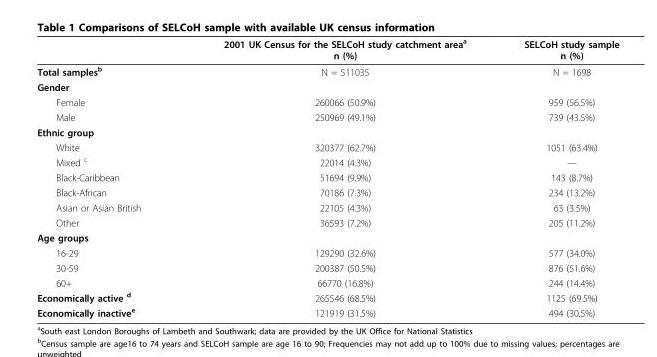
<table><thead><tr><td></td><td>2001 UK Census for the SELCoH study catchment area<sup>a</sup> n (%)</td><td>SELCoH study sample n (%)</td></tr></thead><tbody><tr><td>Total samples<sup>b</sup></td><td>N = 511035</td><td>N = 1698</td></tr><tr><td colspan="3">Gender</td></tr><tr><td>Female</td><td>260066 (50.9%)</td><td>959 (56.5%)</td></tr><tr><td>Male</td><td>250969 (49.1%)</td><td>739 (43.5%)</td></tr><tr><td colspan="3">Ethnic group</td></tr><tr><td>White</td><td>320377 (62.7%)</td><td>1051 (63.4%)</td></tr><tr><td>Mixed <sup>c</sup></td><td>22014 (4.3%)</td><td>—</td></tr><tr><td>Black-Caribbean</td><td>51694 (9.9%)</td><td>143 (8.7%)</td></tr><tr><td>Black-African</td><td>70186 (7.3%)</td><td>234 (13.2%)</td></tr><tr><td>Asian or Asian British</td><td>22105 (4.3%)</td><td>63 (3.5%)</td></tr><tr><td>Other</td><td>36593 (7.2%)</td><td>205 (11.2%)</td></tr><tr><td colspan="3">Age groups</td></tr><tr><td>16-29</td><td>129290 (32.6%)</td><td>577 (34.0%)</td></tr><tr><td>30-59</td><td>200387 (50.5%)</td><td>876 (51.6%)</td></tr><tr><td>60+</td><td>66770 (16.8%)</td><td>244 (14.4%)</td></tr><tr><td>Economically active <sup>d</sup></td><td>265546 (68.5%)</td><td>1125 (69.5%)</td></tr><tr><td>Economically inactive<sup>e</sup></td><td>121919 (31.5%)</td><td>494 (30.5%)</td></tr></tbody></table>